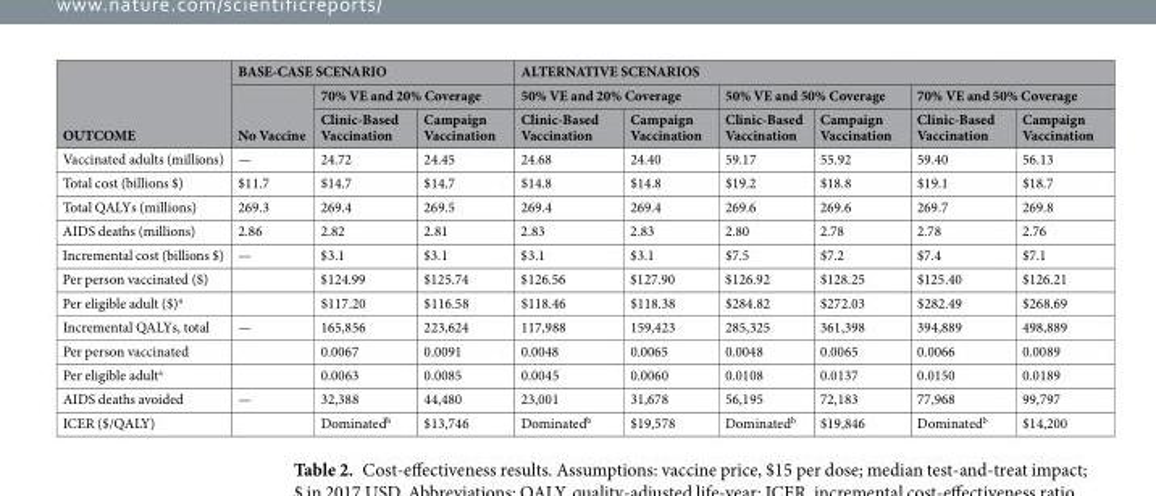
<table><thead><tr><td rowspan="3">OUTCOME</td><td colspan="3">BASE-CASE SCENARIO</td><td colspan="6">ALTERNATIVE SCENARIOS</td></tr><tr><td rowspan="2">No Vaccine</td><td colspan="2">70% VE and 20% Coverage</td><td colspan="2">50% VE and 20% Coverage</td><td colspan="2">50% VE and 50% Coverage</td><td colspan="2">70% VE and 50% Coverage</td></tr><tr><td>Clinic-Based Vaccination</td><td>Campaign Vaccination</td><td>Clinic-Based Vaccination</td><td>Campaign Vaccination</td><td>Clinic-Based Vaccination</td><td>Campaign Vaccination</td><td>Clinic-Based Vaccination</td><td>Campaign Vaccination</td></tr></thead><tbody><tr><td>Vaccinated adults (millions)</td><td>—</td><td>24.72</td><td>24.45</td><td>24.68</td><td>24.40</td><td>59.17</td><td>55.92</td><td>59.40</td><td>56.13</td></tr><tr><td>Total cost (billions $)</td><td>$11.7</td><td>$14.7</td><td>$14.7</td><td>$14.8</td><td>$14.8</td><td>$19.2</td><td>$18.8</td><td>$19.1</td><td>$18.7</td></tr><tr><td>Total QALYs (millions)</td><td>269.3</td><td>269.4</td><td>269.5</td><td>269.4</td><td>269.4</td><td>269.6</td><td>269.6</td><td>269.7</td><td>269.8</td></tr><tr><td>AIDS deaths (millions)</td><td>2.86</td><td>2.82</td><td>2.81</td><td>2.83</td><td>2.83</td><td>2.80</td><td>2.78</td><td>2.78</td><td>2.76</td></tr><tr><td>Incremental cost (billions $)</td><td>—</td><td>$3.1</td><td>$3.1</td><td>$3.1</td><td>$3.1</td><td>$7.5</td><td>$7.2</td><td>$7.4</td><td>$7.1</td></tr><tr><td>Per person vaccinated ($)</td><td></td><td>$124.99</td><td>$125.74</td><td>$126.56</td><td>$127.90</td><td>$126.92</td><td>$128.25</td><td>$125.40</td><td>$126.21</td></tr><tr><td>Per eligible adult ($)<sup>a</sup></td><td></td><td>$117.20</td><td>$116.58</td><td>$118.46</td><td>$118.38</td><td>$284.82</td><td>$272.03</td><td>$282.49</td><td>$268.69</td></tr><tr><td>Incremental QALYs, total</td><td>—</td><td>165,856</td><td>223,624</td><td>117,988</td><td>159,423</td><td>285,325</td><td>361,398</td><td>394,889</td><td>498,889</td></tr><tr><td>Per person vaccinated</td><td></td><td>0.0067</td><td>0.0091</td><td>0.0048</td><td>0.0065</td><td>0.0048</td><td>0.0065</td><td>0.0066</td><td>0.0089</td></tr><tr><td>Per eligible adult<sup>a</sup></td><td></td><td>0.0063</td><td>0.0085</td><td>0.0045</td><td>0.0060</td><td>0.0108</td><td>0.0137</td><td>0.0150</td><td>0.0189</td></tr><tr><td>AIDS deaths avoided</td><td>—</td><td>32,388</td><td>44,480</td><td>23,001</td><td>31,678</td><td>56,195</td><td>72,183</td><td>77,968</td><td>99,797</td></tr><tr><td>ICER ($/QALY)</td><td></td><td>Dominated<sup>b</sup></td><td>$13,746</td><td>Dominated<sup>b</sup></td><td>$19,578</td><td>Dominated<sup>b</sup></td><td>$19,846</td><td>Dominated<sup>b</sup></td><td>$14,200</td></tr></tbody></table>